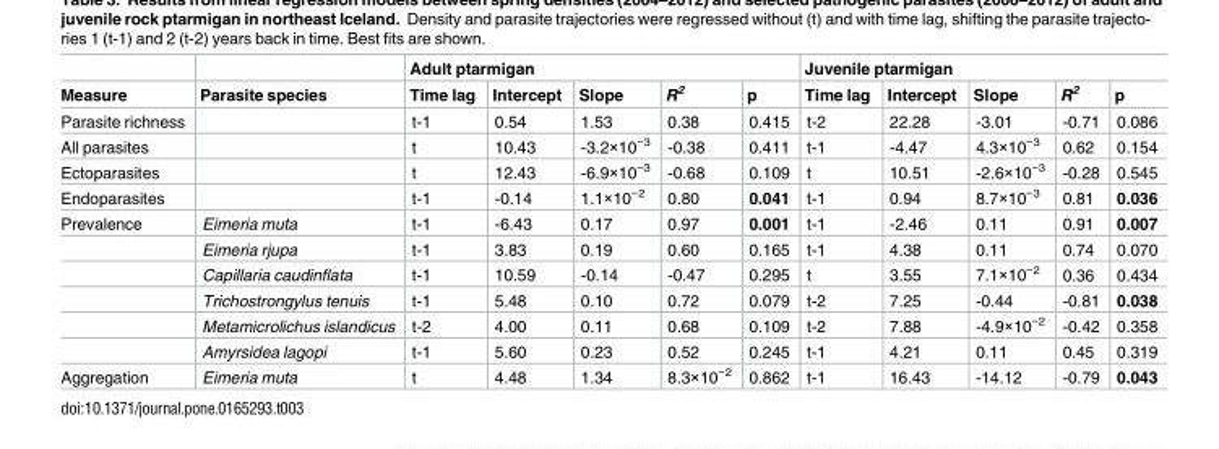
<table><thead><tr><td rowspan="2">Measure</td><td rowspan="2">Parasite species</td><td colspan="5">Adult ptarmigan</td><td colspan="5">Juvenile ptarmigan</td></tr><tr><td>Time lag</td><td>Intercept</td><td>Slope</td><td>R<sup>2</sup></td><td>p</td><td>Time lag</td><td>Intercept</td><td>Slope</td><td>R<sup>2</sup></td><td>p</td></tr></thead><tbody><tr><td>Parasite richness</td><td></td><td>t-1</td><td>0.54</td><td>1.53</td><td>0.38</td><td>0.415</td><td>t-2</td><td>22.28</td><td>-3.01</td><td>-0.71</td><td>0.086</td></tr><tr><td>All parasites</td><td></td><td>t</td><td>10.43</td><td>-3.2×10<sup>−3</sup></td><td>-0.38</td><td>0.411</td><td>t-1</td><td>-4.47</td><td>4.3×10<sup>−3</sup></td><td>0.62</td><td>0.154</td></tr><tr><td>Ectoparasites</td><td></td><td>t</td><td>12.43</td><td>-6.9×10<sup>−3</sup></td><td>-0.68</td><td>0.109</td><td>t</td><td>10.51</td><td>-2.6×10<sup>−3</sup></td><td>-0.28</td><td>0.545</td></tr><tr><td>Endoparasites</td><td></td><td>t-1</td><td>-0.14</td><td>1.1×10<sup>−2</sup></td><td>0.80</td><td>0.041</td><td>t-1</td><td>0.94</td><td>8.7×10<sup>−3</sup></td><td>0.81</td><td>0.036</td></tr><tr><td rowspan="6">Prevalence</td><td>Eimeria muta</td><td>t-1</td><td>-6.43</td><td>0.17</td><td>0.97</td><td>0.001</td><td>t-1</td><td>-2.46</td><td>0.11</td><td>0.91</td><td>0.007</td></tr><tr><td>Eimeria rjupa</td><td>t-1</td><td>3.83</td><td>0.19</td><td>0.60</td><td>0.165</td><td>t-1</td><td>4.38</td><td>0.11</td><td>0.74</td><td>0.070</td></tr><tr><td>Capillaria caudinflata</td><td>t-1</td><td>10.59</td><td>-0.14</td><td>-0.47</td><td>0.295</td><td>t</td><td>3.55</td><td>7.1×10<sup>−2</sup></td><td>0.36</td><td>0.434</td></tr><tr><td>Trichostrongylus tenuis</td><td>t-1</td><td>5.48</td><td>0.10</td><td>0.72</td><td>0.079</td><td>t-2</td><td>7.25</td><td>-0.44</td><td>-0.81</td><td>0.038</td></tr><tr><td>Metamicrolichus islandicus</td><td>t-2</td><td>4.00</td><td>0.11</td><td>0.68</td><td>0.109</td><td>t-2</td><td>7.88</td><td>-4.9×10<sup>−2</sup></td><td>-0.42</td><td>0.358</td></tr><tr><td>Amyrsidea lagopi</td><td>t-1</td><td>5.60</td><td>0.23</td><td>0.52</td><td>0.245</td><td>t-1</td><td>4.21</td><td>0.11</td><td>0.45</td><td>0.319</td></tr><tr><td>Aggregation</td><td>Eimeria muta</td><td>t</td><td>4.48</td><td>1.34</td><td>8.3×10<sup>−2</sup></td><td>0.862</td><td>t-1</td><td>16.43</td><td>-14.12</td><td>-0.79</td><td>0.043</td></tr></tbody></table>